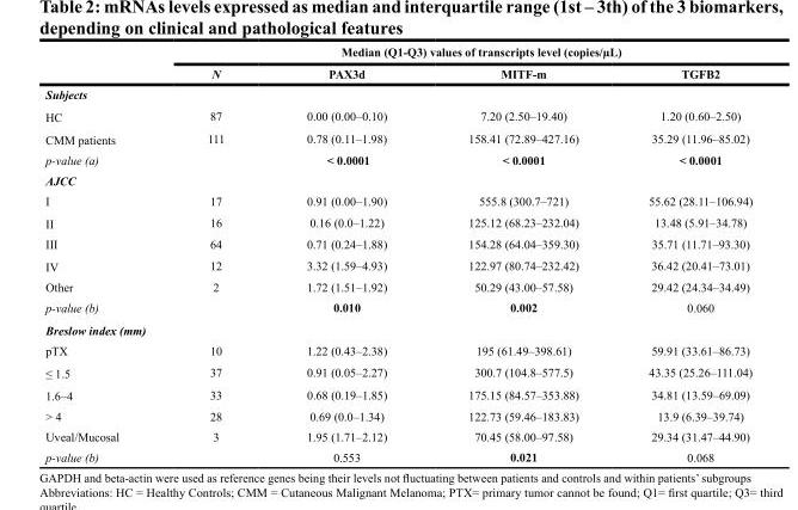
<table><thead><tr><td rowspan="2"></td><td colspan="4">Median (Q1-Q3) values of transcripts level (copies/µL)</td></tr><tr><td>N</td><td>PAX3d</td><td>MITF-m</td><td>TGFB2</td></tr></thead><tbody><tr><td colspan="5">Subjects</td></tr><tr><td>HC</td><td>87</td><td>0.00 (0.00–0.10)</td><td>7.20 (2.50–19.40)</td><td>1.20 (0.60–2.50)</td></tr><tr><td>CMM patients</td><td>111</td><td>0.78 (0.11–1.98)</td><td>158.41 (72.89–427.16)</td><td>35.29 (11.96–85.02)</td></tr><tr><td>p-value (a)</td><td></td><td>&lt; 0.0001</td><td>&lt; 0.0001</td><td>&lt; 0.0001</td></tr><tr><td colspan="5">AJCC</td></tr><tr><td>I</td><td>17</td><td>0.91 (0.00–1.90)</td><td>555.8 (300.7–721)</td><td>55.62 (28.11–106.94)</td></tr><tr><td>II</td><td>16</td><td>0.16 (0.0–1.22)</td><td>125.12 (68.23–232.04)</td><td>13.48 (5.91–34.78)</td></tr><tr><td>III</td><td>64</td><td>0.71 (0.24–1.88)</td><td>154.28 (64.04–359.30)</td><td>35.71 (11.71–93.30)</td></tr><tr><td>IV</td><td>12</td><td>3.32 (1.59–4.93)</td><td>122.97 (80.74–232.42)</td><td>36.42 (20.41–73.01)</td></tr><tr><td>Other</td><td>2</td><td>1.72 (1.51–1.92)</td><td>50.29 (43.00–57.58)</td><td>29.42 (24.34–34.49)</td></tr><tr><td>p-value (b)</td><td></td><td>0.010</td><td>0.002</td><td>0.060</td></tr><tr><td colspan="5">Breslow index (mm)</td></tr><tr><td>pTX</td><td>10</td><td>1.22 (0.43–2.38)</td><td>195 (61.49–398.61)</td><td>59.91 (33.61–86.73)</td></tr><tr><td>≤ 1.5</td><td>37</td><td>0.91 (0.05–2.27)</td><td>300.7 (104.8–577.5)</td><td>43.35 (25.26–111.04)</td></tr><tr><td>1.6–4</td><td>33</td><td>0.68 (0.19–1.85)</td><td>175.15 (84.57–353.88)</td><td>34.81 (13.59–69.09)</td></tr><tr><td>&gt; 4</td><td>28</td><td>0.69 (0.0–1.34)</td><td>122.73 (59.46–183.83)</td><td>13.9 (6.39–39.74)</td></tr><tr><td>Uveal/Mucosal</td><td>3</td><td>1.95 (1.71–2.12)</td><td>70.45 (58.00–97.58)</td><td>29.34 (31.47–44.90)</td></tr><tr><td>p-value (b)</td><td></td><td>0.553</td><td>0.021</td><td>0.068</td></tr></tbody></table>